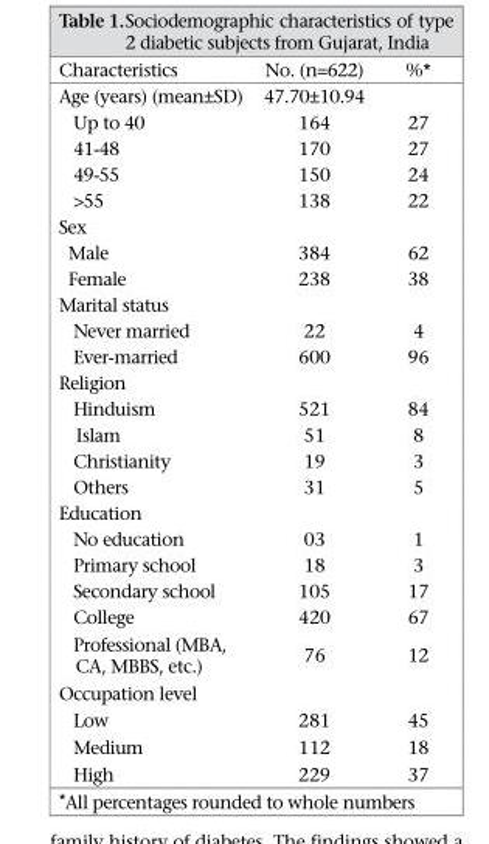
<table><thead><tr><td>Characteristics</td><td>No. (n=622)</td><td>%*</td></tr></thead><tbody><tr><td>Age (years) (mean±SD)</td><td>47.70±10.94</td><td></td></tr><tr><td>Up to 40</td><td>164</td><td>27</td></tr><tr><td>41-48</td><td>170</td><td>27</td></tr><tr><td>49-55</td><td>150</td><td>24</td></tr><tr><td>&gt;55</td><td>138</td><td>22</td></tr><tr><td colspan="3">Sex</td></tr><tr><td>Male</td><td>384</td><td>62</td></tr><tr><td>Female</td><td>238</td><td>38</td></tr><tr><td colspan="3">Marital status</td></tr><tr><td>Never married</td><td>22</td><td>4</td></tr><tr><td>Ever-married</td><td>600</td><td>96</td></tr><tr><td colspan="3">Religion</td></tr><tr><td>Hinduism</td><td>521</td><td>84</td></tr><tr><td>Islam</td><td>51</td><td>8</td></tr><tr><td>Christianity</td><td>19</td><td>3</td></tr><tr><td>Others</td><td>31</td><td>5</td></tr><tr><td colspan="3">Education</td></tr><tr><td>No education</td><td>03</td><td>1</td></tr><tr><td>Primary school</td><td>18</td><td>3</td></tr><tr><td>Secondary school</td><td>105</td><td>17</td></tr><tr><td>College</td><td>420</td><td>67</td></tr><tr><td>Professional (MBA, CA, MBBS, etc.)</td><td>76</td><td>12</td></tr><tr><td colspan="3">Occupation level</td></tr><tr><td>Low</td><td>281</td><td>45</td></tr><tr><td>Medium</td><td>112</td><td>18</td></tr><tr><td>High</td><td>229</td><td>37</td></tr></tbody></table>